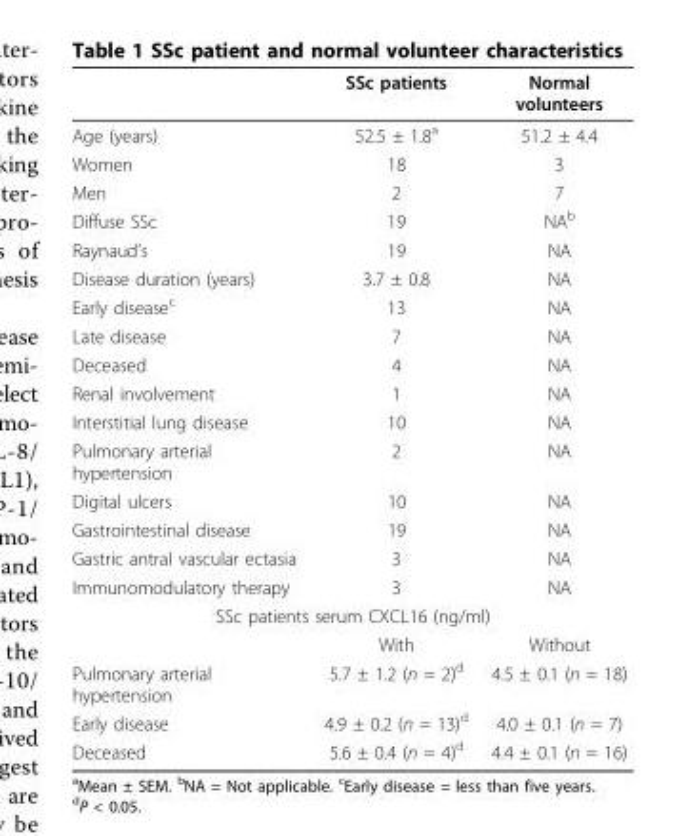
<table><thead><tr><td></td><td>SSc patients</td><td>Normal volunteers</td></tr></thead><tbody><tr><td>Age (years)</td><td>52.5 ± 1.8<sup>a</sup></td><td>51.2 ± 4.4</td></tr><tr><td>Women</td><td>18</td><td>3</td></tr><tr><td>Men</td><td>2</td><td>7</td></tr><tr><td>Diffuse SSc</td><td>19</td><td>NA<sup>b</sup></td></tr><tr><td>Raynaud’s</td><td>19</td><td>NA</td></tr><tr><td>Disease duration (years)</td><td>3.7 ± 0.8</td><td>NA</td></tr><tr><td>Early disease<sup>c</sup></td><td>13</td><td>NA</td></tr><tr><td>Late disease</td><td>7</td><td>NA</td></tr><tr><td>Deceased</td><td>4</td><td>NA</td></tr><tr><td>Renal involvement</td><td>1</td><td>NA</td></tr><tr><td>Interstitial lung disease</td><td>10</td><td>NA</td></tr><tr><td>Pulmonary arterial hypertension</td><td>2</td><td>NA</td></tr><tr><td>Digital ulcers</td><td>10</td><td>NA</td></tr><tr><td>Gastrointestinal disease</td><td>19</td><td>NA</td></tr><tr><td>Gastric antral vascular ectasia</td><td>3</td><td>NA</td></tr><tr><td>Immunomodulatory therapy</td><td>3</td><td>NA</td></tr><tr><td colspan="3">SSc patients serum CXCL16 (ng/ml)</td></tr><tr><td></td><td>With</td><td>Without</td></tr><tr><td>Pulmonary arterial hypertension</td><td>5.7 ± 1.2 (n = 2)<sup>d</sup></td><td>4.5 ± 0.1 (n = 18)</td></tr><tr><td>Early disease</td><td>4.9 ± 0.2 (n = 13)<sup>d</sup></td><td>4.0 ± 0.1 (n = 7)</td></tr><tr><td>Deceased</td><td>5.6 ± 0.4 (n = 4)<sup>d</sup></td><td>4.4 ± 0.1 (n = 16)</td></tr></tbody></table>